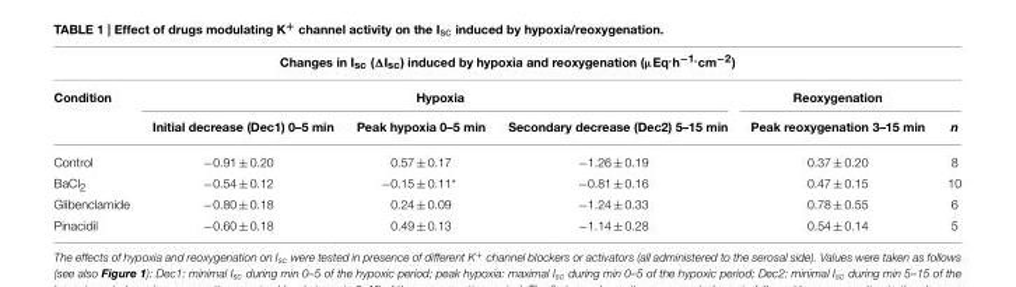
<table><thead><tr><td colspan="6">Changes in Isc (ΔIsc) induced by hypoxia and reoxygenation (µEq.h−1.cm−2)</td></tr><tr><td rowspan="2">Condition</td><td colspan="3">Hypoxia</td><td colspan="2">Reoxygenation</td></tr><tr><td>Initial decrease (Dec1) 0–5 min</td><td>Peak hypoxia 0–5 min</td><td>Secondary decrease (Dec2) 5–15 min</td><td>Peak reoxygenation 3–15 min</td><td>n</td></tr></thead><tbody><tr><td>Control</td><td>−0.91 ± 0.20</td><td>0.57 ± 0.17</td><td>−1.26 ± 0.19</td><td>0.37 ± 0.20</td><td>8</td></tr><tr><td>BaCl<sub>2</sub></td><td>−0.54 ± 0.12</td><td>−0.15 ± 0.11*</td><td>−0.81 ± 0.16</td><td>0.47 ± 0.15</td><td>10</td></tr><tr><td>Glibenclamide</td><td>−0.80 ± 0.18</td><td>0.24 ± 0.09</td><td>−1.24 ± 0.33</td><td>0.78 ± 0.55</td><td>6</td></tr><tr><td>Pinacidil</td><td>−0.60 ± 0.18</td><td>0.49 ± 0.13</td><td>−1.14 ± 0.28</td><td>0.54 ± 0.14</td><td>5</td></tr></tbody></table>